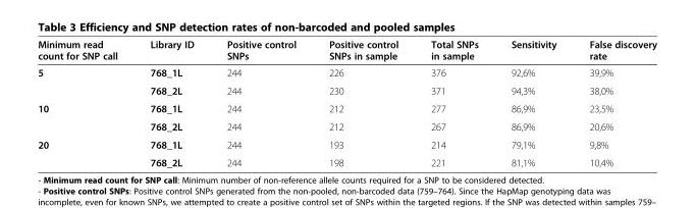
<table><thead><tr><td>Minimum read count for SNP call</td><td>Library ID</td><td>Positive control SNPs</td><td>Positive control SNPs in sample</td><td>Total SNPs in sample</td><td>Sensitivity</td><td>False discovery rate</td></tr></thead><tbody><tr><td rowspan="2">5</td><td>768_1L</td><td>244</td><td>226</td><td>376</td><td>92,6%</td><td>39,9%</td></tr><tr><td>768_2L</td><td>244</td><td>230</td><td>371</td><td>94,3%</td><td>38,0%</td></tr><tr><td rowspan="2">10</td><td>768_1L</td><td>244</td><td>212</td><td>277</td><td>86,9%</td><td>23,5%</td></tr><tr><td>768_2L</td><td>244</td><td>212</td><td>267</td><td>86,9%</td><td>20,6%</td></tr><tr><td rowspan="2">20</td><td>768_1L</td><td>244</td><td>193</td><td>214</td><td>79,1%</td><td>9,8%</td></tr><tr><td>768_2L</td><td>244</td><td>198</td><td>221</td><td>81,1%</td><td>10,4%</td></tr></tbody></table>